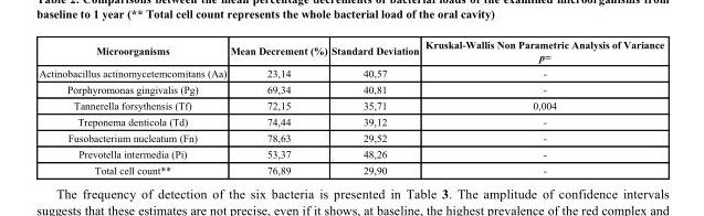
<table><thead><tr><td>Microorganisms</td><td>Mean Decrement (%)</td><td>Standard Deviation</td><td>Kruskal-Wallis Non Parametric Analysis of Variance p=</td></tr></thead><tbody><tr><td>Actinobacillus actinomycetemcomitans (Aa)</td><td>23,14</td><td>40,57</td><td>-</td></tr><tr><td>Porphyromonas gingivalis (Pg)</td><td>69,34</td><td>40,81</td><td>-</td></tr><tr><td>Tannerella forsythensis (Tf)</td><td>72,15</td><td>35,71</td><td>0,004</td></tr><tr><td>Treponema denticola (Td)</td><td>74,44</td><td>39,12</td><td>-</td></tr><tr><td>Fusobacterium nucleatum (Fn)</td><td>78,63</td><td>29,52</td><td>-</td></tr><tr><td>Prevotella intermedia (Pi)</td><td>53,37</td><td>48,26</td><td>-</td></tr><tr><td>Total cell count**</td><td>76,89</td><td>29,90</td><td>-</td></tr></tbody></table>